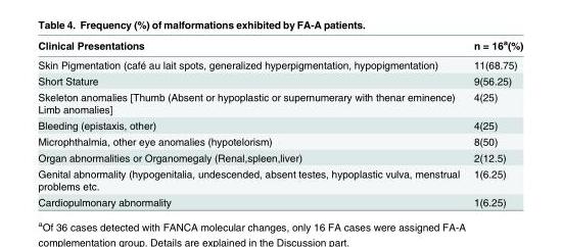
<table><thead><tr><td>Clinical Presentations</td><td>n = 16<sup>a</sup>(%)</td></tr></thead><tbody><tr><td>Skin Pigmentation (café au lait spots, generalized hyperpigmentation, hypopigmentation)</td><td>11(68.75)</td></tr><tr><td>Short Stature</td><td>9(56.25)</td></tr><tr><td>Skeleton anomalies [Thumb (Absent or hypoplastic or supernumerary with thenar eminence) Limb anomalies]</td><td>4(25)</td></tr><tr><td>Bleeding (epistaxis, other)</td><td>4(25)</td></tr><tr><td>Microphthalmia, other eye anomalies (hypotelorism)</td><td>8(50)</td></tr><tr><td>Organ abnormalities or Organomegaly (Renal,spleen,liver)</td><td>2(12.5)</td></tr><tr><td>Genital abnormality (hypogenitalia, undescended, absent testes, hypoplastic vulva, menstrual problems etc.</td><td>1(6.25)</td></tr><tr><td>Cardiopulmonary abnormality</td><td>1(6.25)</td></tr></tbody></table>